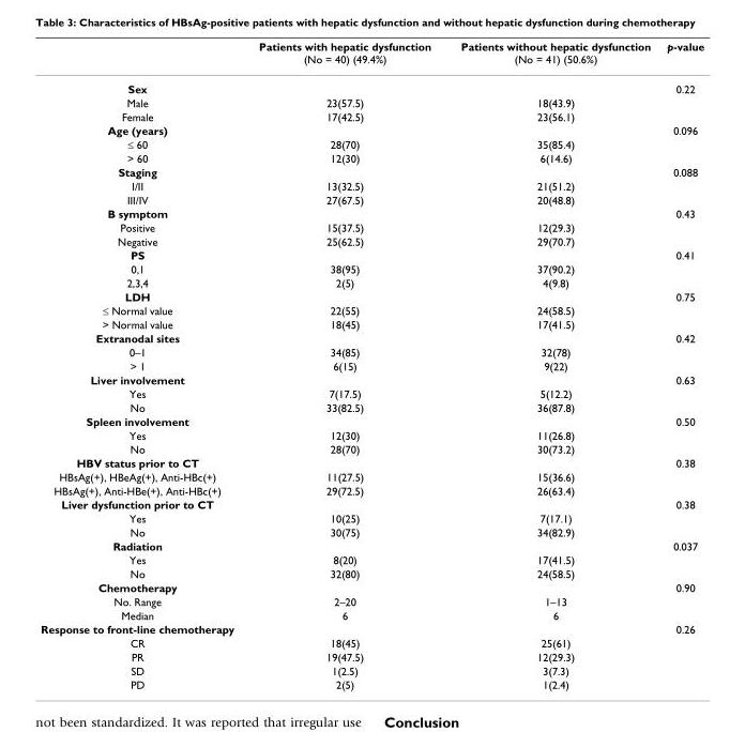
<table><thead><tr><td></td><td>Patients with hepatic dysfunction (No = 40) (49.4%)</td><td>Patients without hepatic dysfunction (No = 41) (50.6%)</td><td>p-value</td></tr></thead><tbody><tr><td>Sex</td><td></td><td></td><td>0.22</td></tr><tr><td>Male</td><td>23(57.5)</td><td>18(43.9)</td><td></td></tr><tr><td>Female</td><td>17(42.5)</td><td>23(56.1)</td><td></td></tr><tr><td>Age (years)</td><td></td><td></td><td>0.096</td></tr><tr><td>≤ 60</td><td>28(70)</td><td>35(85.4)</td><td></td></tr><tr><td>&gt; 60</td><td>12(30)</td><td>6(14.6)</td><td></td></tr><tr><td>Staging</td><td></td><td></td><td>0.088</td></tr><tr><td>I/II</td><td>13(32.5)</td><td>21(51.2)</td><td></td></tr><tr><td>III/IV</td><td>27(67.5)</td><td>20(48.8)</td><td></td></tr><tr><td>B symptom</td><td></td><td></td><td>0.43</td></tr><tr><td>Positive</td><td>15(37.5)</td><td>12(29.3)</td><td></td></tr><tr><td>Negative</td><td>25(62.5)</td><td>29(70.7)</td><td></td></tr><tr><td>PS</td><td></td><td></td><td>0.41</td></tr><tr><td>0,1</td><td>38(95)</td><td>37(90.2)</td><td></td></tr><tr><td>2,3,4</td><td>2(5)</td><td>4(9.8)</td><td></td></tr><tr><td>LDH</td><td></td><td></td><td>0.75</td></tr><tr><td>≤ Normal value</td><td>22(55)</td><td>24(58.5)</td><td></td></tr><tr><td>&gt; Normal value</td><td>18(45)</td><td>17(41.5)</td><td></td></tr><tr><td>Extranodal sites</td><td></td><td></td><td>0.42</td></tr><tr><td>0–1</td><td>34(85)</td><td>32(78)</td><td></td></tr><tr><td>&gt; 1</td><td>6(15)</td><td>9(22)</td><td></td></tr><tr><td>Liver involvement</td><td></td><td></td><td>0.63</td></tr><tr><td>Yes</td><td>7(17.5)</td><td>5(12.2)</td><td></td></tr><tr><td>No</td><td>33(82.5)</td><td>36(87.8)</td><td></td></tr><tr><td>Spleen involvement</td><td></td><td></td><td>0.50</td></tr><tr><td>Yes</td><td>12(30)</td><td>11(26.8)</td><td></td></tr><tr><td>No</td><td>28(70)</td><td>30(73.2)</td><td></td></tr><tr><td>HBV status prior to CT</td><td></td><td></td><td>0.38</td></tr><tr><td>HBsAg(+), HBeAg(+), Anti-HBc(+)</td><td>11(27.5)</td><td>15(36.6)</td><td></td></tr><tr><td>HBsAg(+), Anti-HBe(+), Anti-HBc(+)</td><td>29(72.5)</td><td>26(63.4)</td><td></td></tr><tr><td>Liver dysfunction prior to CT</td><td></td><td></td><td>0.38</td></tr><tr><td>Yes</td><td>10(25)</td><td>7(17.1)</td><td></td></tr><tr><td>No</td><td>30(75)</td><td>34(82.9)</td><td></td></tr><tr><td>Radiation</td><td></td><td></td><td>0.037</td></tr><tr><td>Yes</td><td>8(20)</td><td>17(41.5)</td><td></td></tr><tr><td>No</td><td>32(80)</td><td>24(58.5)</td><td></td></tr><tr><td>Chemotherapy</td><td></td><td></td><td>0.90</td></tr><tr><td>No. Range</td><td>2–20</td><td>1–13</td><td></td></tr><tr><td>Median</td><td>6</td><td>6</td><td></td></tr><tr><td>Response to front-line chemotherapy</td><td></td><td></td><td>0.26</td></tr><tr><td>CR</td><td>18(45)</td><td>25(61)</td><td></td></tr><tr><td>PR</td><td>19(47.5)</td><td>12(29.3)</td><td></td></tr><tr><td>SD</td><td>1(2.5)</td><td>3(7.3)</td><td></td></tr><tr><td>PD</td><td>2(5)</td><td>1(2.4)</td><td></td></tr></tbody></table>